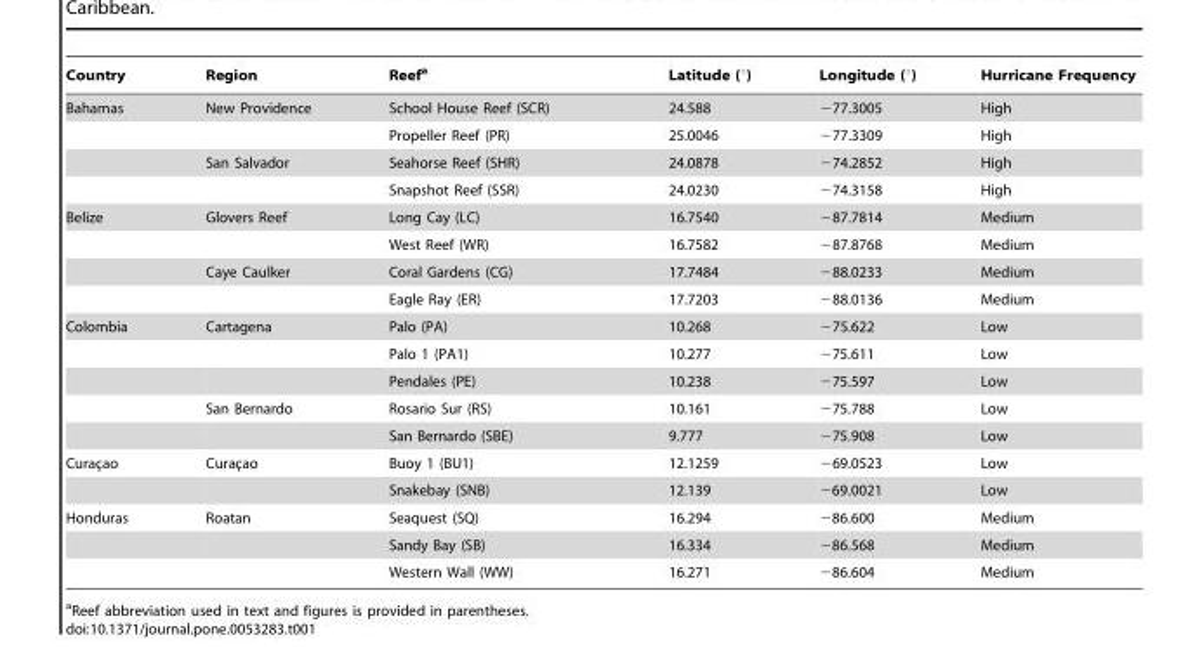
<table><thead><tr><td>Country</td><td>Region</td><td>Reef<sup>a</sup></td><td>Latitude (°)</td><td>Longitude (°)</td><td>Hurricane Frequency</td></tr></thead><tbody><tr><td rowspan="4">Bahamas</td><td>New Providence</td><td>School House Reef (SCR)</td><td>24.588</td><td>−77.3005</td><td>High</td></tr><tr><td></td><td>Propeller Reef (PR)</td><td>25.0046</td><td>−77.3309</td><td>High</td></tr><tr><td>San Salvador</td><td>Seahorse Reef (SHR)</td><td>24.0878</td><td>−74.2852</td><td>High</td></tr><tr><td></td><td>Snapshot Reef (SSR)</td><td>24.0230</td><td>−74.3158</td><td>High</td></tr><tr><td rowspan="4">Belize</td><td>Glovers Reef</td><td>Long Cay (LC)</td><td>16.7540</td><td>−87.7814</td><td>Medium</td></tr><tr><td></td><td>West Reef (WR)</td><td>16.7582</td><td>−87.8768</td><td>Medium</td></tr><tr><td>Caye Caulker</td><td>Coral Gardens (CG)</td><td>17.7484</td><td>−88.0233</td><td>Medium</td></tr><tr><td></td><td>Eagle Ray (ER)</td><td>17.7203</td><td>−88.0136</td><td>Medium</td></tr><tr><td rowspan="5">Colombia</td><td>Cartagena</td><td>Palo (PA)</td><td>10.268</td><td>−75.622</td><td>Low</td></tr><tr><td></td><td>Palo 1 (PA1)</td><td>10.277</td><td>−75.611</td><td>Low</td></tr><tr><td></td><td>Pendales (PE)</td><td>10.238</td><td>−75.597</td><td>Low</td></tr><tr><td>San Bernardo</td><td>Rosario Sur (RS)</td><td>10.161</td><td>−75.788</td><td>Low</td></tr><tr><td></td><td>San Bernardo (SBE)</td><td>9.777</td><td>−75.908</td><td>Low</td></tr><tr><td rowspan="2">Curac¸ao</td><td>Curac¸ao</td><td>Buoy 1 (BU1)</td><td>12.1259</td><td>−69.0523</td><td>Low</td></tr><tr><td></td><td>Snakebay (SNB)</td><td>12.139</td><td>−69.0021</td><td>Low</td></tr><tr><td rowspan="3">Honduras</td><td>Roatan</td><td>Seaquest (SQ)</td><td>16.294</td><td>−86.600</td><td>Medium</td></tr><tr><td></td><td>Sandy Bay (SB)</td><td>16.334</td><td>−86.568</td><td>Medium</td></tr><tr><td></td><td>Western Wall (WW)</td><td>16.271</td><td>−86.604</td><td>Medium</td></tr></tbody></table>